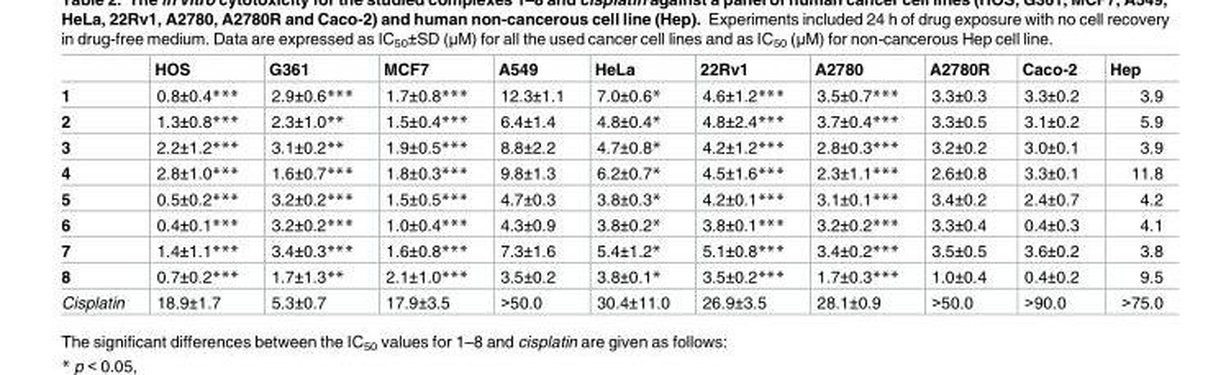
<table><thead><tr><td></td><td>HOS</td><td>G361</td><td>MCF7</td><td>A549</td><td>HeLa</td><td>22Rv1</td><td>A2780</td><td>A2780R</td><td>Caco-2</td><td>Hep</td></tr></thead><tbody><tr><td>1</td><td>0.8±0.4***</td><td>2.9±0.6***</td><td>1.7±0.8***</td><td>12.3±1.1</td><td>7.0±0.6*</td><td>4.6±1.2***</td><td>3.5±0.7***</td><td>3.3±0.3</td><td>3.3±0.2</td><td>3.9</td></tr><tr><td>2</td><td>1.3±0.8***</td><td>2.3±1.0**</td><td>1.5±0.4***</td><td>6.4±1.4</td><td>4.8±0.4*</td><td>4.8±2.4***</td><td>3.7±0.4***</td><td>3.3±0.5</td><td>3.1±0.2</td><td>5.9</td></tr><tr><td>3</td><td>2.2±1.2***</td><td>3.1±0.2**</td><td>1.9±0.5***</td><td>8.8±2.2</td><td>4.7±0.8*</td><td>4.2±1.2***</td><td>2.8±0.3***</td><td>3.2±0.2</td><td>3.0±0.1</td><td>3.9</td></tr><tr><td>4</td><td>2.8±1.0***</td><td>1.6±0.7***</td><td>1.8±0.3***</td><td>9.8±1.3</td><td>6.2±0.7*</td><td>4.5±1.6***</td><td>2.3±1.1***</td><td>2.6±0.8</td><td>3.3±0.1</td><td>11.8</td></tr><tr><td>5</td><td>0.5±0.2***</td><td>3.2±0.2***</td><td>1.5±0.5***</td><td>4.7±0.3</td><td>3.8±0.3*</td><td>4.2±0.1***</td><td>3.1±0.1***</td><td>3.4±0.2</td><td>2.4±0.7</td><td>4.2</td></tr><tr><td>6</td><td>0.4±0.1***</td><td>3.2±0.2***</td><td>1.0±0.4***</td><td>4.3±0.9</td><td>3.8±0.2*</td><td>3.8±0.1***</td><td>3.2±0.2***</td><td>3.3±0.4</td><td>0.4±0.3</td><td>4.1</td></tr><tr><td>7</td><td>1.4±1.1***</td><td>3.4±0.3***</td><td>1.6±0.8***</td><td>7.3±1.6</td><td>5.4±1.2*</td><td>5.1±0.8***</td><td>3.4±0.2***</td><td>3.5±0.5</td><td>3.6±0.2</td><td>3.8</td></tr><tr><td>8</td><td>0.7±0.2***</td><td>1.7±1.3**</td><td>2.1±1.0***</td><td>3.5±0.2</td><td>3.8±0.1*</td><td>3.5±0.2***</td><td>1.7±0.3***</td><td>1.0±0.4</td><td>0.4±0.2</td><td>9.5</td></tr><tr><td>Cisplatin</td><td>18.9±1.7</td><td>5.3±0.7</td><td>17.9±3.5</td><td>&gt;50.0</td><td>30.4±11.0</td><td>26.9±3.5</td><td>28.1±0.9</td><td>&gt;50.0</td><td>&gt;90.0</td><td>&gt;75.0</td></tr></tbody></table>